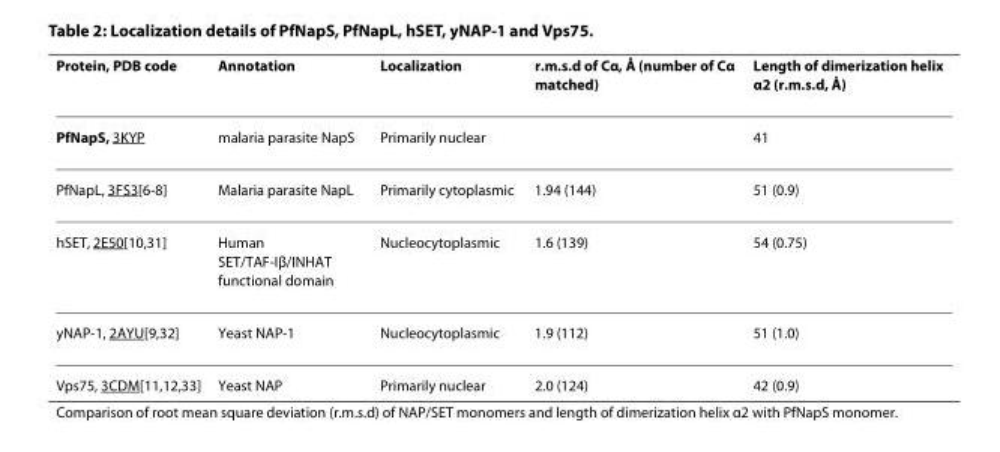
<table><thead><tr><td>Protein, PDB code</td><td>Annotation</td><td>Localization</td><td>r.m.s.d of Cα, Å (number of Cα matched)</td><td>Length of dimerization helix α2 (r.m.s.d, Å)</td></tr></thead><tbody><tr><td>PfNapS, 3KYP</td><td>malaria parasite NapS</td><td>Primarily nuclear</td><td></td><td>41</td></tr><tr><td>PfNapL, 3FS3[6-8]</td><td>Malaria parasite NapL</td><td>Primarily cytoplasmic</td><td>1.94 (144)</td><td>51 (0.9)</td></tr><tr><td>hSET, 2E50[10,31]</td><td>Human SET/TAF-Iβ/INHAT functional domain</td><td>Nucleocytoplasmic</td><td>1.6 (139)</td><td>54 (0.75)</td></tr><tr><td>yNAP-1, 2AYU[9,32]</td><td>Yeast NAP-1</td><td>Nucleocytoplasmic</td><td>1.9 (112)</td><td>51 (1.0)</td></tr><tr><td>Vps75, 3CDM[11,12,33]</td><td>Yeast NAP</td><td>Primarily nuclear</td><td>2.0 (124)</td><td>42 (0.9)</td></tr></tbody></table>